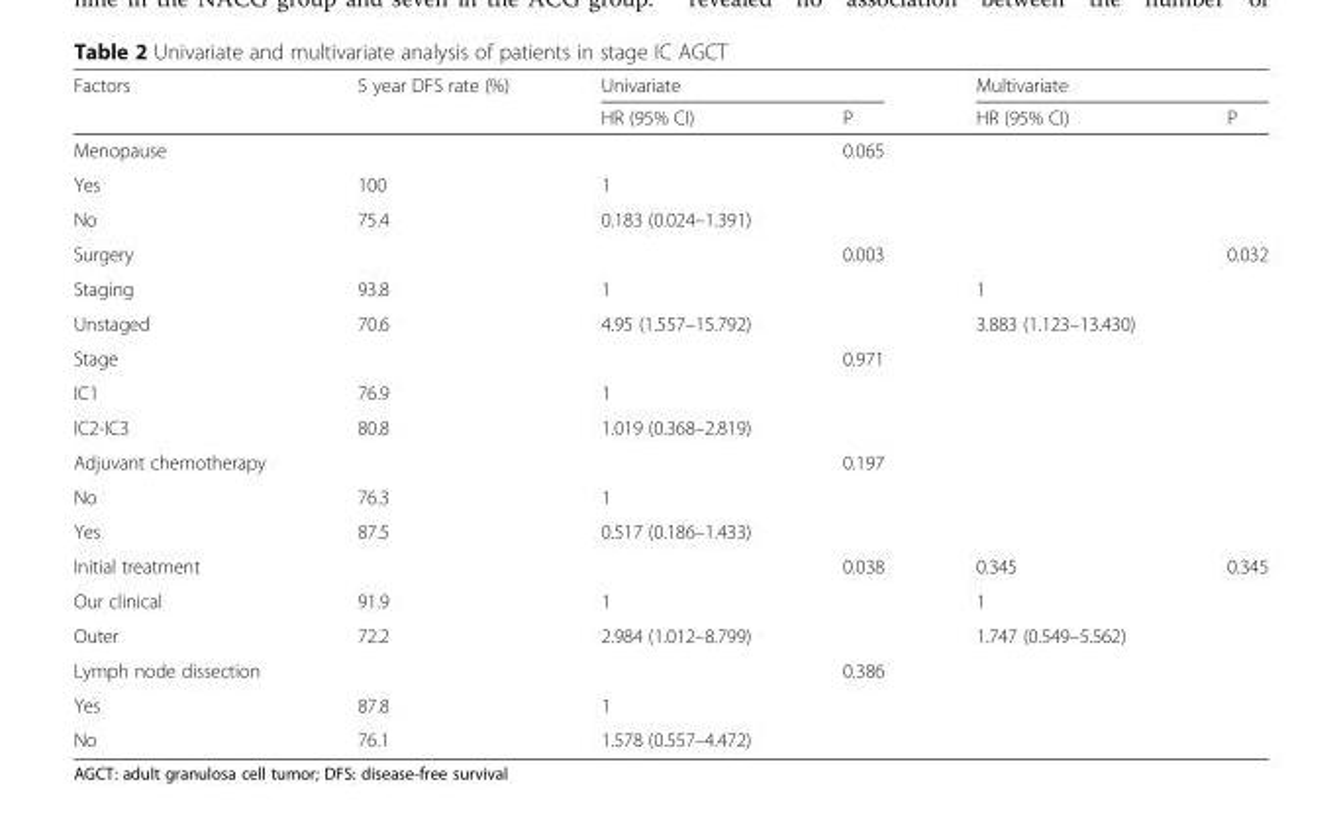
<table><thead><tr><td rowspan="2">Factors</td><td rowspan="2">5 year DFS rate (%)</td><td colspan="2">Univariate</td><td colspan="2">Multivariate</td></tr><tr><td>HR (95% CI)</td><td>P</td><td>HR (95% CI)</td><td>P</td></tr></thead><tbody><tr><td>Menopause</td><td></td><td></td><td>0.065</td><td></td><td></td></tr><tr><td>Yes</td><td>100</td><td>1</td><td></td><td></td><td></td></tr><tr><td>No</td><td>75.4</td><td>0.183 (0.024–1.391)</td><td></td><td></td><td></td></tr><tr><td>Surgery</td><td></td><td></td><td>0.003</td><td></td><td>0.032</td></tr><tr><td>Staging</td><td>93.8</td><td>1</td><td></td><td>1</td><td></td></tr><tr><td>Unstaged</td><td>70.6</td><td>4.95 (1.557–15.792)</td><td></td><td>3.883 (1.123–13.430)</td><td></td></tr><tr><td>Stage</td><td></td><td></td><td>0.971</td><td></td><td></td></tr><tr><td>IC1</td><td>76.9</td><td>1</td><td></td><td></td><td></td></tr><tr><td>IC2-IC3</td><td>80.8</td><td>1.019 (0.368–2.819)</td><td></td><td></td><td></td></tr><tr><td>Adjuvant chemotherapy</td><td></td><td></td><td>0.197</td><td></td><td></td></tr><tr><td>No</td><td>76.3</td><td>1</td><td></td><td></td><td></td></tr><tr><td>Yes</td><td>87.5</td><td>0.517 (0.186–1.433)</td><td></td><td></td><td></td></tr><tr><td>Initial treatment</td><td></td><td></td><td>0.038</td><td>0.345</td><td>0.345</td></tr><tr><td>Our clinical</td><td>91.9</td><td>1</td><td></td><td>1</td><td></td></tr><tr><td>Outer</td><td>72.2</td><td>2.984 (1.012–8.799)</td><td></td><td>1.747 (0.549–5.562)</td><td></td></tr><tr><td>Lymph node dissection</td><td></td><td></td><td>0.386</td><td></td><td></td></tr><tr><td>Yes</td><td>87.8</td><td>1</td><td></td><td></td><td></td></tr><tr><td>No</td><td>76.1</td><td>1.578 (0.557–4.472)</td><td></td><td></td><td></td></tr></tbody></table>